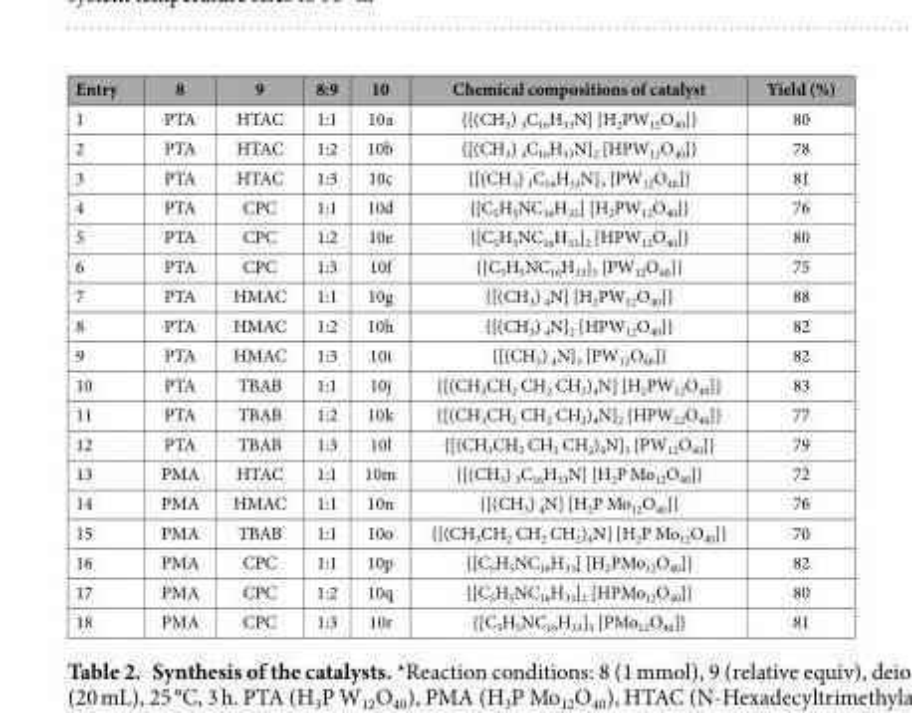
<table><thead><tr><td>Entry</td><td>8</td><td>9</td><td>8:9</td><td>10</td><td>Chemical compositions of catalyst</td><td>Yield (%)</td></tr></thead><tbody><tr><td>1</td><td>PTA</td><td>HTAC</td><td>1:1</td><td>10a</td><td>{[(CH<sub>3</sub>) <sub>3</sub>C<sub>16</sub>H<sub>33</sub>N] [H<sub>2</sub>PW<sub>12</sub>O<sub>40</sub>]}</td><td>80</td></tr><tr><td>2</td><td>PTA</td><td>HTAC</td><td>1:2</td><td>10b</td><td>{[(CH<sub>3</sub>) <sub>3</sub>C<sub>16</sub>H<sub>33</sub>N]<sub>2</sub> [HPW<sub>12</sub>O<sub>40</sub>]}</td><td>78</td></tr><tr><td>3</td><td>PTA</td><td>HTAC</td><td>1:3</td><td>10c</td><td>{[(CH<sub>3</sub>) <sub>3</sub>C<sub>16</sub>H<sub>33</sub>N]<sub>3</sub> [PW<sub>12</sub>O<sub>40</sub>]}</td><td>81</td></tr><tr><td>4</td><td>PTA</td><td>CPC</td><td>1:1</td><td>10d</td><td>{[C<sub>5</sub>H<sub>5</sub>NC<sub>16</sub>H<sub>33</sub>] [H<sub>2</sub>PW<sub>12</sub>O<sub>40</sub>]}</td><td>76</td></tr><tr><td>5</td><td>PTA</td><td>CPC</td><td>1:2</td><td>10e</td><td>{[C<sub>5</sub>H<sub>5</sub>NC<sub>16</sub>H<sub>33</sub>]<sub>2</sub> [HPW<sub>12</sub>O<sub>40</sub>]}</td><td>80</td></tr><tr><td>6</td><td>PTA</td><td>CPC</td><td>1:3</td><td>10f</td><td>{[C<sub>5</sub>H<sub>5</sub>NC<sub>16</sub>H<sub>33</sub>]<sub>3</sub> [PW<sub>12</sub>O<sub>40</sub>]}</td><td>75</td></tr><tr><td>7</td><td>PTA</td><td>HMAC</td><td>1:1</td><td>10g</td><td>{[(CH<sub>3</sub>) <sub>4</sub>N] [H<sub>2</sub>PW<sub>12</sub>O<sub>40</sub>]}</td><td>88</td></tr><tr><td>8</td><td>PTA</td><td>HMAC</td><td>1:2</td><td>10h</td><td>{[(CH<sub>3</sub>) <sub>4</sub>N]<sub>2</sub> [HPW<sub>12</sub>O<sub>40</sub>]}</td><td>82</td></tr><tr><td>9</td><td>PTA</td><td>HMAC</td><td>1:3</td><td>10i</td><td>{[(CH<sub>3</sub>) <sub>4</sub>N]<sub>3</sub> [PW<sub>12</sub>O<sub>40</sub>]}</td><td>82</td></tr><tr><td>10</td><td>PTA</td><td>TBAB</td><td>1:1</td><td>10j</td><td>{[(CH<sub>3</sub>CH<sub>2</sub> CH<sub>2</sub> CH<sub>2</sub>)<sub>4</sub>N] [H<sub>2</sub>PW<sub>12</sub>O<sub>40</sub>]}</td><td>83</td></tr><tr><td>11</td><td>PTA</td><td>TBAB</td><td>1:2</td><td>10k</td><td>{[(CH<sub>3</sub>CH<sub>2</sub> CH<sub>2</sub> CH<sub>2</sub>)<sub>4</sub>N]<sub>2</sub> [HPW<sub>12</sub>O<sub>40</sub>]}</td><td>77</td></tr><tr><td>12</td><td>PTA</td><td>TBAB</td><td>1:3</td><td>10l</td><td>{[(CH<sub>3</sub>CH<sub>2</sub> CH<sub>2</sub> CH<sub>2</sub>)<sub>4</sub>N]<sub>3</sub> [PW<sub>12</sub>O<sub>40</sub>]}</td><td>79</td></tr><tr><td>13</td><td>PMA</td><td>HTAC</td><td>1:1</td><td>10m</td><td>{[(CH<sub>3</sub>) <sub>3</sub>C<sub>16</sub>H<sub>33</sub>N] [H<sub>2</sub>P Mo<sub>12</sub>O<sub>40</sub>]}</td><td>72</td></tr><tr><td>14</td><td>PMA</td><td>HMAC</td><td>1:1</td><td>10n</td><td>{[(CH<sub>3</sub>) <sub>4</sub>N] [H<sub>2</sub>P Mo<sub>12</sub>O<sub>40</sub>]}</td><td>76</td></tr><tr><td>15</td><td>PMA</td><td>TBAB</td><td>1:1</td><td>10o</td><td>{[(CH<sub>3</sub>CH<sub>2</sub> CH<sub>2</sub> CH<sub>2</sub>)<sub>4</sub>N] [H<sub>2</sub>P Mo<sub>12</sub>O<sub>40</sub>]}</td><td>70</td></tr><tr><td>16</td><td>PMA</td><td>CPC</td><td>1:1</td><td>10p</td><td>{[C<sub>5</sub>H<sub>5</sub>NC<sub>16</sub>H<sub>33</sub>] [H<sub>2</sub>PMo<sub>12</sub>O<sub>40</sub>]}</td><td>82</td></tr><tr><td>17</td><td>PMA</td><td>CPC</td><td>1:2</td><td>10q</td><td>{[C<sub>5</sub>H<sub>5</sub>NC<sub>16</sub>H<sub>33</sub>]<sub>2</sub> [HPMo<sub>12</sub>O<sub>40</sub>]}</td><td>80</td></tr><tr><td>18</td><td>PMA</td><td>CPC</td><td>1:3</td><td>10r</td><td>{[C<sub>5</sub>H<sub>5</sub>NC<sub>16</sub>H<sub>33</sub>]<sub>3</sub> [PMo<sub>12</sub>O<sub>40</sub>]}</td><td>81</td></tr></tbody></table>